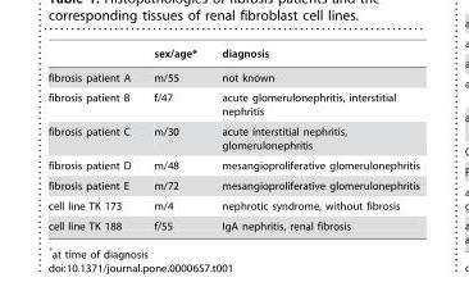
<table><thead><tr><td></td><td>sex/age*</td><td>diagnosis</td></tr></thead><tbody><tr><td>fibrosis patient A</td><td>m/55</td><td>not known</td></tr><tr><td>fibrosis patient B</td><td>f/47</td><td>acute glomerulonephritis, interstitial nephritis</td></tr><tr><td>fibrosis patient C</td><td>m/30</td><td>acute interstitial nephritis, glomerulonephritis</td></tr><tr><td>fibrosis patient D</td><td>m/48</td><td>mesangioproliferative glomerulonephritis</td></tr><tr><td>fibrosis patient E</td><td>m/72</td><td>mesangioproliferative glomerulonephritis</td></tr><tr><td>cell line TK 173</td><td>m/4</td><td>nephrotic syndrome, without fibrosis</td></tr><tr><td>cell line TK 188</td><td>f/55</td><td>IgA nephritis, renal fibrosis</td></tr></tbody></table>